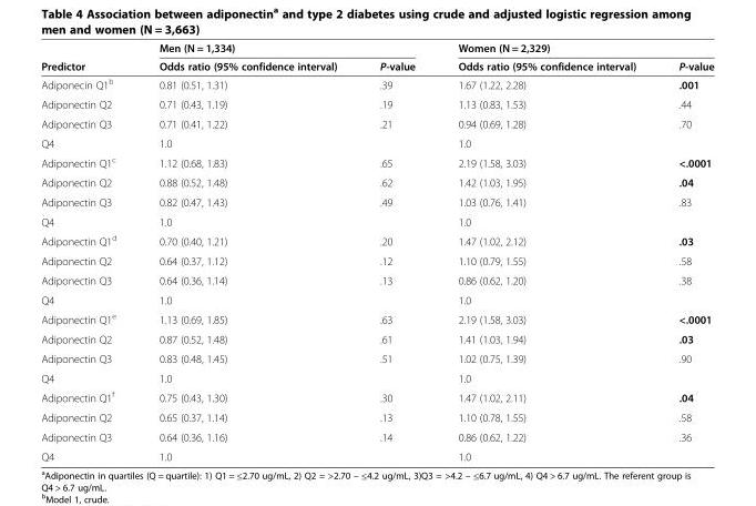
<table><thead><tr><td rowspan="2">Predictor</td><td colspan="2">Men (N = 1,334)</td><td colspan="2">Women (N = 2,329)</td></tr><tr><td>Odds ratio (95% confidence interval)</td><td>P-value</td><td>Odds ratio (95% confidence interval)</td><td>P-value</td></tr></thead><tbody><tr><td>Adiponecin Q1<sup>b</sup></td><td>0.81 (0.51, 1.31)</td><td>.39</td><td>1.67 (1.22, 2.28)</td><td>.001</td></tr><tr><td>Adiponectin Q2</td><td>0.71 (0.43, 1.19)</td><td>.19</td><td>1.13 (0.83, 1.53)</td><td>.44</td></tr><tr><td>Adiponectin Q3</td><td>0.71 (0.41, 1.22)</td><td>.21</td><td>0.94 (0.69, 1.28)</td><td>.70</td></tr><tr><td>Q4</td><td>1.0</td><td></td><td>1.0</td><td></td></tr><tr><td>Adiponectin Q1<sup>c</sup></td><td>1.12 (0.68, 1.83)</td><td>.65</td><td>2.19 (1.58, 3.03)</td><td>&lt;.0001</td></tr><tr><td>Adiponectin Q2</td><td>0.88 (0.52, 1.48)</td><td>.62</td><td>1.42 (1.03, 1.95)</td><td>.04</td></tr><tr><td>Adiponectin Q3</td><td>0.82 (0.47, 1.43)</td><td>.49</td><td>1.03 (0.76, 1.41)</td><td>.83</td></tr><tr><td>Q4</td><td>1.0</td><td></td><td>1.0</td><td></td></tr><tr><td>Adiponectin Q1<sup>d</sup></td><td>0.70 (0.40, 1.21)</td><td>.20</td><td>1.47 (1.02, 2.12)</td><td>.03</td></tr><tr><td>Adiponectin Q2</td><td>0.64 (0.37, 1.12)</td><td>.12</td><td>1.10 (0.79, 1.55)</td><td>.58</td></tr><tr><td>Adiponectin Q3</td><td>0.64 (0.36, 1.14)</td><td>.13</td><td>0.86 (0.62, 1.20)</td><td>.38</td></tr><tr><td>Q4</td><td>1.0</td><td></td><td>1.0</td><td></td></tr><tr><td>Adiponectin Q1<sup>e</sup></td><td>1.13 (0.69, 1.85)</td><td>.63</td><td>2.19 (1.58, 3.03)</td><td>&lt;.0001</td></tr><tr><td>Adiponectin Q2</td><td>0.87 (0.52, 1.48)</td><td>.61</td><td>1.41 (1.03, 1.94)</td><td>.03</td></tr><tr><td>Adiponectin Q3</td><td>0.83 (0.48, 1.45)</td><td>.51</td><td>1.02 (0.75, 1.39)</td><td>.90</td></tr><tr><td>Q4</td><td>1.0</td><td></td><td>1.0</td><td></td></tr><tr><td>Adiponectin Q1<sup>f</sup></td><td>0.75 (0.43, 1.30)</td><td>.30</td><td>1.47 (1.02, 2.11)</td><td>.04</td></tr><tr><td>Adiponectin Q2</td><td>0.65 (0.37, 1.14)</td><td>.13</td><td>1.10 (0.78, 1.55)</td><td>.58</td></tr><tr><td>Adiponectin Q3</td><td>0.64 (0.36, 1.16)</td><td>.14</td><td>0.86 (0.62, 1.22)</td><td>.36</td></tr><tr><td>Q4</td><td>1.0</td><td></td><td>1.0</td><td></td></tr></tbody></table>